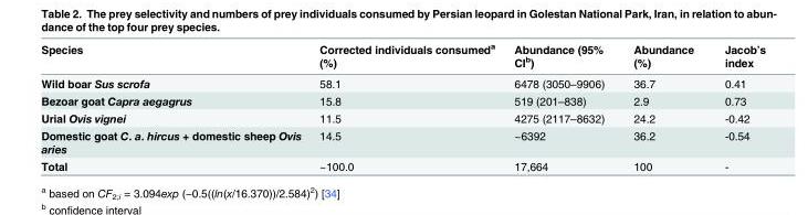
<table><thead><tr><td>Species</td><td>Corrected individuals consumed<sup>a</sup> (%)</td><td>Abundance (95% CI<sup>b</sup>)</td><td>Abundance (%)</td><td>Jacob’s index</td></tr></thead><tbody><tr><td>Wild boar Sus scrofa</td><td>58.1</td><td>6478 (3050–9906)</td><td>36.7</td><td>0.41</td></tr><tr><td>Bezoar goat Capra aegagrus</td><td>15.8</td><td>519 (201–838)</td><td>2.9</td><td>0.73</td></tr><tr><td>Urial Ovis vignei</td><td>11.5</td><td>4275 (2117–8632)</td><td>24.2</td><td>-0.42</td></tr><tr><td>Domestic goat C. a. hircus + domestic sheep Ovis aries</td><td>14.5</td><td>~6392</td><td>36.2</td><td>-0.54</td></tr><tr><td>Total</td><td>~100.0</td><td>17,664</td><td>100</td><td>-</td></tr></tbody></table>